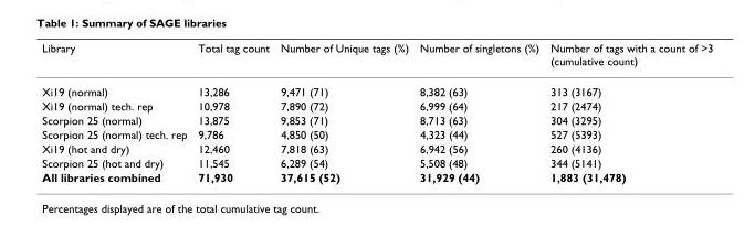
<table><thead><tr><td>Library</td><td>Total tag count</td><td>Number of Unique tags (%)</td><td>Number of singletons (%)</td><td>Number of tags with a count of &gt;3 (cumulative count)</td></tr></thead><tbody><tr><td>Xi19 (normal)</td><td>13,286</td><td>9,471 (71)</td><td>8,382 (63)</td><td>313 (3167)</td></tr><tr><td>Xi19 (normal) tech. rep</td><td>10,978</td><td>7,890 (72)</td><td>6,999 (64)</td><td>217 (2474)</td></tr><tr><td>Scorpion 25 (normal)</td><td>13,875</td><td>9,853 (71)</td><td>8,713 (63)</td><td>304 (3295)</td></tr><tr><td>Scorpion 25 (normal) tech. rep</td><td>9,786</td><td>4,850 (50)</td><td>4,323 (44)</td><td>527 (5393)</td></tr><tr><td>Xi19 (hot and dry)</td><td>12,460</td><td>7,818 (63)</td><td>6,942 (56)</td><td>260 (4136)</td></tr><tr><td>Scorpion 25 (hot and dry)</td><td>11,545</td><td>6,289 (54)</td><td>5,508 (48)</td><td>344 (5141)</td></tr><tr><td>All libraries combined</td><td>71,930</td><td>37,615 (52)</td><td>31,929 (44)</td><td>1,883 (31,478)</td></tr></tbody></table>